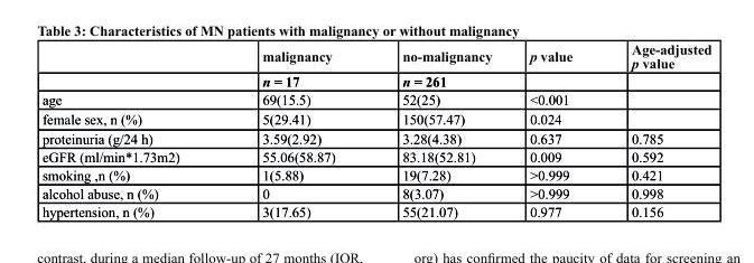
<table><thead><tr><td rowspan="2"></td><td rowspan="2">malignancy n = 17</td><td rowspan="2">no-malignancy n = 261</td><td rowspan="2">p value</td><td rowspan="2">Age-adjusted p value</td></tr><tr></tr></thead><tbody><tr><td>age</td><td>69(15.5)</td><td>52(25)</td><td>&lt;0.001</td><td></td></tr><tr><td>female sex, n (%)</td><td>5(29.41)</td><td>150(57.47)</td><td>0.024</td><td></td></tr><tr><td>proteinuria (g/24 h)</td><td>3.59(2.92)</td><td>3.28(4.38)</td><td>0.637</td><td>0.785</td></tr><tr><td>eGFR (ml/min*1.73m2)</td><td>55.06(58.87)</td><td>83.18(52.81)</td><td>0.009</td><td>0.592</td></tr><tr><td>smoking ,n (%)</td><td>1(5.88)</td><td>19(7.28)</td><td>&gt;0.999</td><td>0.421</td></tr><tr><td>alcohol abuse, n (%)</td><td>0</td><td>8(3.07)</td><td>&gt;0.999</td><td>0.998</td></tr><tr><td>hypertension, n (%)</td><td>3(17.65)</td><td>55(21.07)</td><td>0.977</td><td>0.156</td></tr></tbody></table>